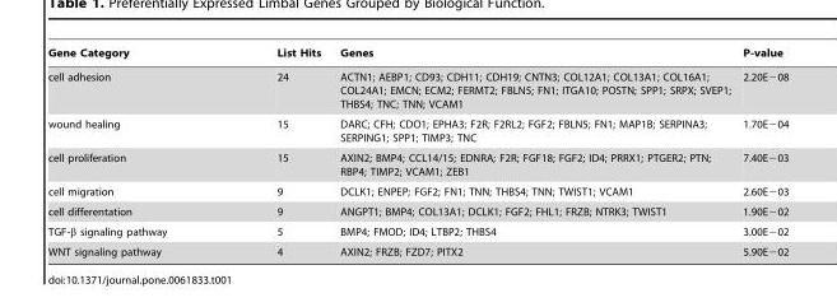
<table><thead><tr><td>Gene Category</td><td>List Hits</td><td>Genes</td><td>P-value</td></tr></thead><tbody><tr><td>cell adhesion</td><td>24</td><td>ACTN1; AEBP1; CD93; CDH11; CDH19; CNTN3; COL12A1; COL13A1; COL16A1; COL24A1; EMCN; ECM2; FERMT2; FBLN5; FN1; ITGA10; POSTN; SPP1; SRPX; SVEP1; THBS4; TNC; TNN; VCAM1</td><td>2.20E−08</td></tr><tr><td>wound healing</td><td>15</td><td>DARC; CFH; CDO1; EPHA3; F2R; F2RL2; FGF2; FBLN5; FN1; MAP1B; SERPINA3; SERPING1; SPP1; TIMP3; TNC</td><td>1.70E−04</td></tr><tr><td>cell proliferation</td><td>15</td><td>AXIN2; BMP4; CCL14/15; EDNRA; F2R; FGF18; FGF2; ID4; PRRX1; PTGER2; PTN; RBP4; TIMP2; VCAM1; ZEB1</td><td>7.40E−03</td></tr><tr><td>cell migration</td><td>9</td><td>DCLK1; ENPEP; FGF2; FN1; TNN; THBS4; TNN; TWIST1; VCAM1</td><td>2.60E−03</td></tr><tr><td>cell differentation</td><td>9</td><td>ANGPT1; BMP4; COL13A1; DCLK1; FGF2; FHL1; FRZB; NTRK3; TWIST1</td><td>1.90E−02</td></tr><tr><td>TGF-β signaling pathway</td><td>5</td><td>BMP4; FMOD; ID4; LTBP2; THBS4</td><td>3.00E−02</td></tr><tr><td>WNT signaling pathway</td><td>4</td><td>AXIN2; FRZB; FZD7; PITX2</td><td>5.90E−02</td></tr></tbody></table>